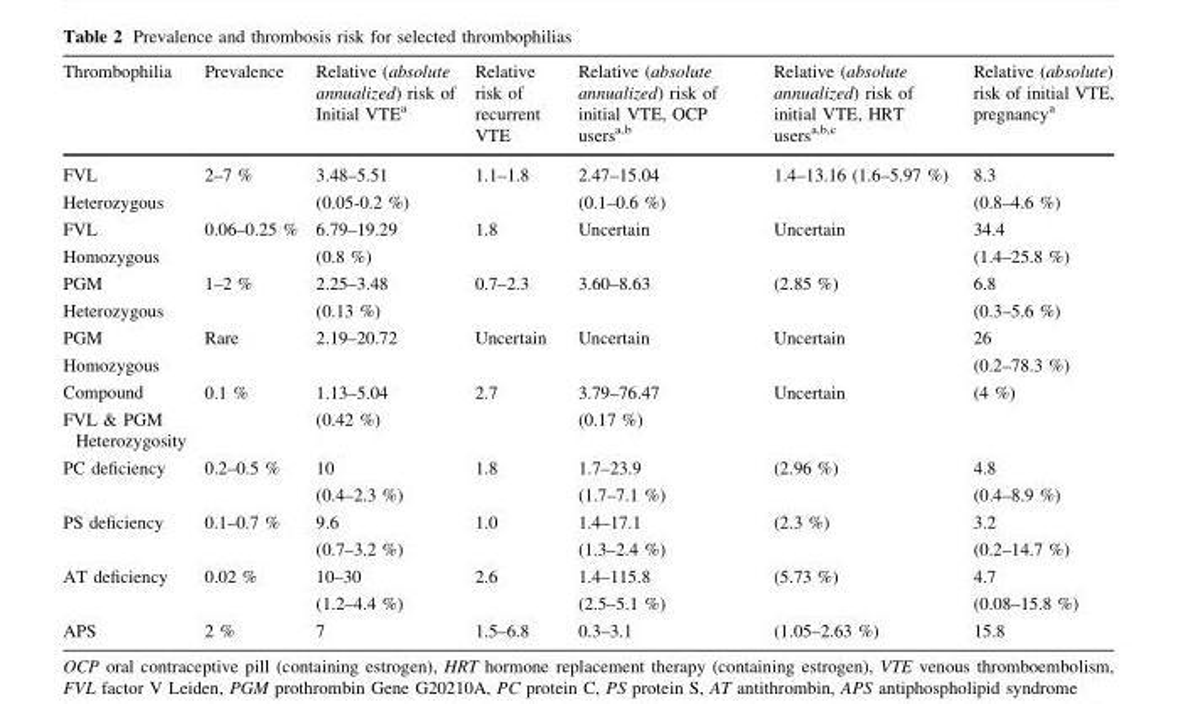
<table><thead><tr><td>Thrombophilia</td><td>Prevalence</td><td>Relative (absolute annualized) risk of Initial VTE<sup>a</sup></td><td>Relative risk of recurrent VTE</td><td>Relative (absolute annualized) risk of initial VTE, OCP users<sup>a,b</sup></td><td>Relative (absolute annualized) risk of initial VTE, HRT users<sup>a,b,c</sup></td><td>Relative (absolute) risk of initial VTE, pregnancy<sup>a</sup></td></tr></thead><tbody><tr><td>FVL Heterozygous</td><td>2–7 %</td><td>3.48–5.51 (0.05-0.2 %)</td><td>1.1–1.8</td><td>2.47–15.04 (0.1–0.6 %)</td><td>1.4–13.16 (1.6–5.97 %)</td><td>8.3 (0.8–4.6 %)</td></tr><tr><td>FVL Homozygous</td><td>0.06–0.25 %</td><td>6.79–19.29 (0.8 %)</td><td>1.8</td><td>Uncertain</td><td>Uncertain</td><td>34.4 (1.4–25.8 %)</td></tr><tr><td>PGM Heterozygous</td><td>1–2 %</td><td>2.25–3.48 (0.13 %)</td><td>0.7–2.3</td><td>3.60–8.63</td><td>(2.85 %)</td><td>6.8 (0.3–5.6 %)</td></tr><tr><td>PGM Homozygous</td><td>Rare</td><td>2.19–20.72</td><td>Uncertain</td><td>Uncertain</td><td>Uncertain</td><td>26 (0.2–78.3 %)</td></tr><tr><td>Compound FVL &amp; PGM Heterozygosity</td><td>0.1 %</td><td>1.13–5.04 (0.42 %)</td><td>2.7</td><td>3.79–76.47 (0.17 %)</td><td>Uncertain</td><td>(4 %)</td></tr><tr><td>PC deficiency</td><td>0.2–0.5 %</td><td>10 (0.4–2.3 %)</td><td>1.8</td><td>1.7–23.9 (1.7–7.1 %)</td><td>(2.96 %)</td><td>4.8 (0.4–8.9 %)</td></tr><tr><td>PS deficiency</td><td>0.1–0.7 %</td><td>9.6 (0.7–3.2 %)</td><td>1.0</td><td>1.4–17.1 (1.3–2.4 %)</td><td>(2.3 %)</td><td>3.2 (0.2–14.7 %)</td></tr><tr><td>AT deficiency</td><td>0.02 %</td><td>10–30 (1.2–4.4 %)</td><td>2.6</td><td>1.4–115.8 (2.5–5.1 %)</td><td>(5.73 %)</td><td>4.7 (0.08–15.8 %)</td></tr><tr><td>APS</td><td>2 %</td><td>7</td><td>1.5–6.8</td><td>0.3–3.1</td><td>(1.05–2.63 %)</td><td>15.8</td></tr></tbody></table>